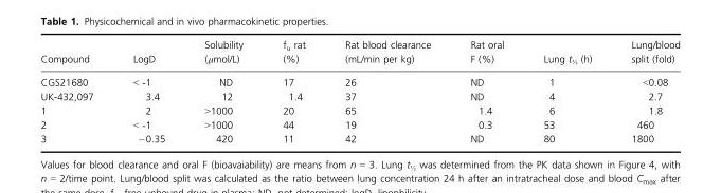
<table><thead><tr><td>Compound</td><td>LogD</td><td>Solubility (μmol/L)</td><td>f<sub>u</sub> rat (%)</td><td>Rat blood clearance (mL/min per kg)</td><td>Rat oral F (%)</td><td>Lung t<sub>½</sub> (h)</td><td>Lung/blood split (fold)</td></tr></thead><tbody><tr><td>CGS21680</td><td>&lt; -1</td><td>ND</td><td>17</td><td>26</td><td>ND</td><td>1</td><td>&lt;0.08</td></tr><tr><td>UK-432,097</td><td>3.4</td><td>12</td><td>1.4</td><td>37</td><td>ND</td><td>4</td><td>2.7</td></tr><tr><td>1</td><td>2</td><td>&gt;1000</td><td>20</td><td>65</td><td>1.4</td><td>6</td><td>1.8</td></tr><tr><td>2</td><td>&lt; -1</td><td>&gt;1000</td><td>44</td><td>19</td><td>0.3</td><td>53</td><td>460</td></tr><tr><td>3</td><td>−0.35</td><td>420</td><td>11</td><td>42</td><td>ND</td><td>80</td><td>1800</td></tr></tbody></table>